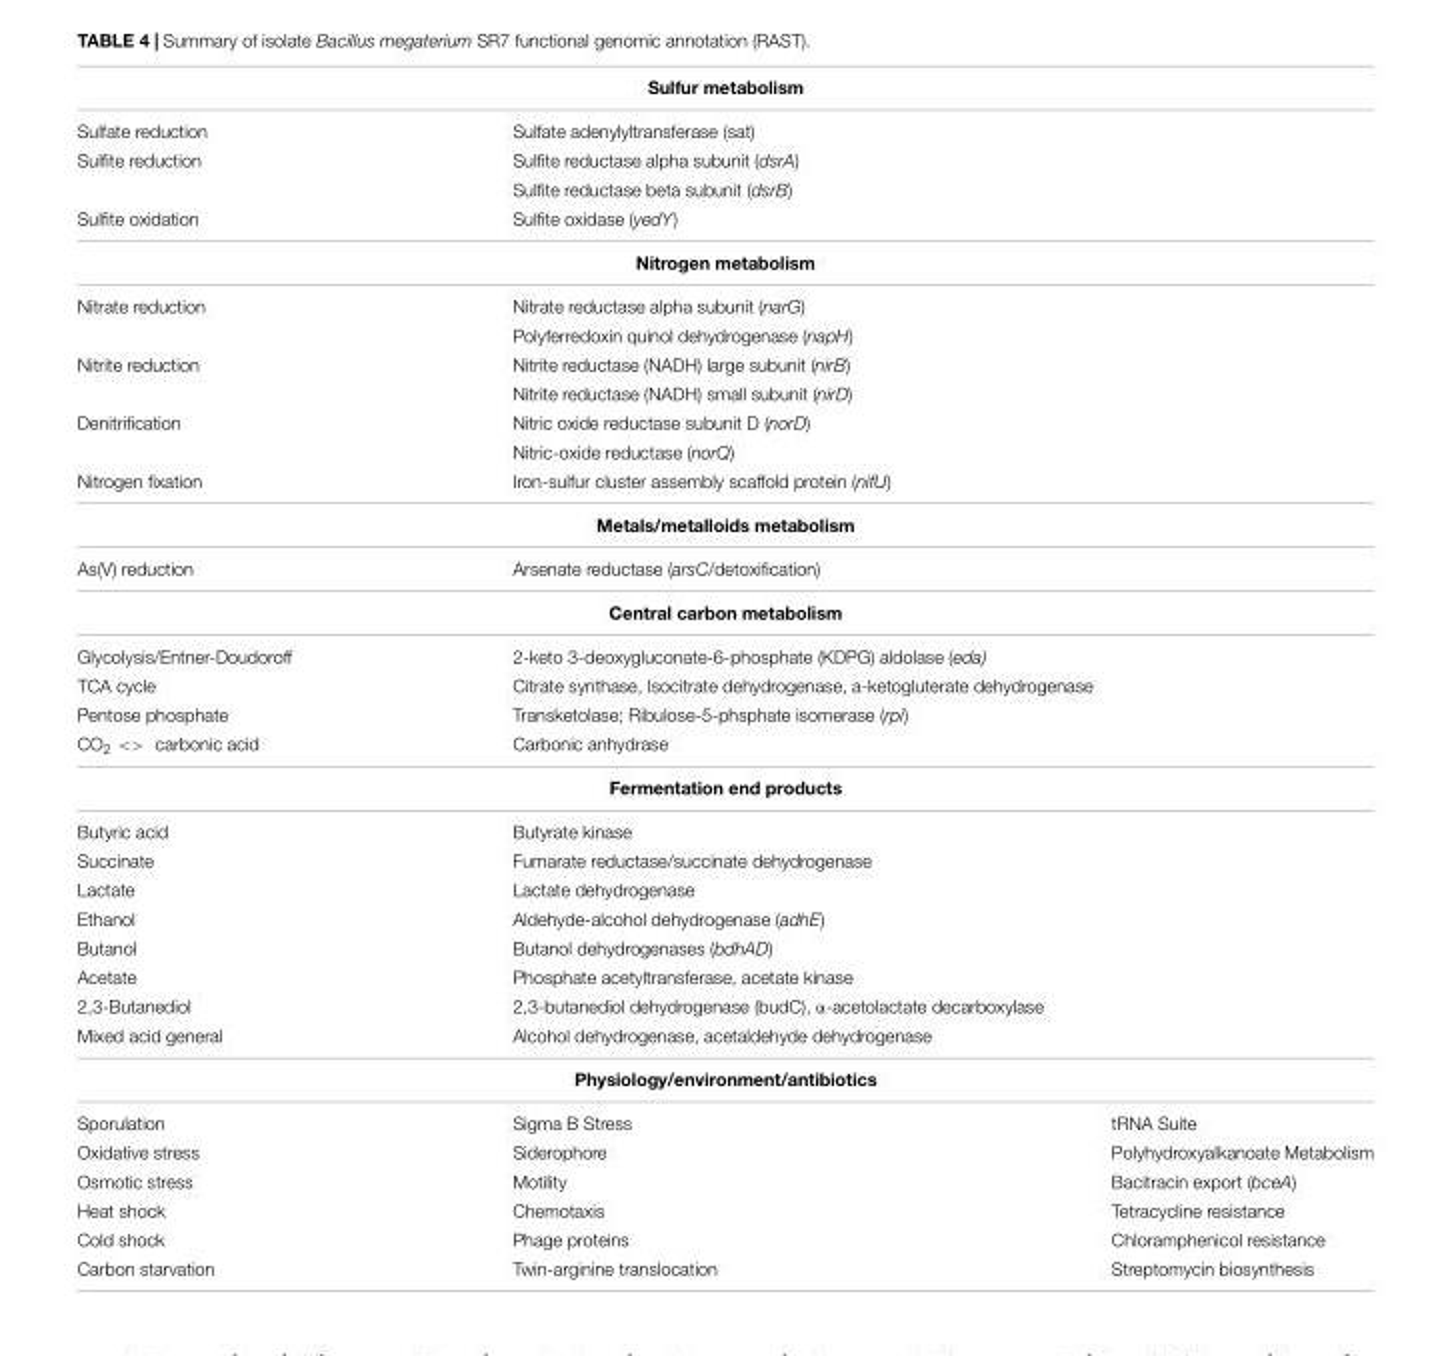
<table><thead><tr><td colspan="3">Sulfur metabolism</td></tr></thead><tbody><tr><td>Sulfate reduction</td><td colspan="2">Sulfate adenylyltransferase (sat)</td></tr><tr><td rowspan="2">Sulfite reduction</td><td colspan="2">Sulfite reductase alpha subunit (dsrA)</td></tr><tr><td colspan="2">Sulfite reductase beta subunit (dsrB)</td></tr><tr><td>Sulfite oxidation</td><td colspan="2">Sulfite oxidase (yedY)</td></tr><tr><td colspan="3">Nitrogen metabolism</td></tr><tr><td rowspan="2">Nitrate reduction</td><td colspan="2">Nitrate reductase alpha subunit (narG)</td></tr><tr><td colspan="2">Polyferredoxin quinol dehydrogenase (napH)</td></tr><tr><td rowspan="2">Nitrite reduction</td><td colspan="2">Nitrite reductase (NADH) large subunit (nirB)</td></tr><tr><td colspan="2">Nitrite reductase (NADH) small subunit (nirD)</td></tr><tr><td rowspan="2">Denitrification</td><td colspan="2">Nitric oxide reductase subunit D (norD)</td></tr><tr><td colspan="2">Nitric-oxide reductase (norQ)</td></tr><tr><td>Nitrogen fixation</td><td>Iron-sulfur cluster assembly scaffold protein (nifU)</td><td></td></tr><tr><td colspan="3">Metals/metalloids metabolism</td></tr><tr><td>As(V) reduction</td><td colspan="2">Arsenate reductase (arsC/detoxification)</td></tr><tr><td colspan="3">Central carbon metabolism</td></tr><tr><td>Glycolysis/Entner-Doudoroff</td><td colspan="2">2-keto 3-deoxygluconate-6-phosphate (KDPG) aldolase (eda)</td></tr><tr><td>TCA cycle</td><td colspan="2">Citrate synthase, Isocitrate dehydrogenase, a-ketogluterate dehydrogenase</td></tr><tr><td>Pentose phosphate</td><td colspan="2">Transketolase; Ribulose-5-phsphate isomerase (rpi)</td></tr><tr><td>CO<sub>2</sub> &lt;&gt; carbonic acid</td><td colspan="2">Carbonic anhydrase</td></tr><tr><td colspan="3">Fermentation end products</td></tr><tr><td>Butyric acid</td><td colspan="2">Butyrate kinase</td></tr><tr><td>Succinate</td><td colspan="2">Fumarate reductase/succinate dehydrogenase</td></tr><tr><td>Lactate</td><td colspan="2">Lactate dehydrogenase</td></tr><tr><td>Ethanol</td><td colspan="2">Aldehyde-alcohol dehydrogenase (adhE)</td></tr><tr><td>Butanol</td><td colspan="2">Butanol dehydrogenases (bdhAD)</td></tr><tr><td>Acetate</td><td colspan="2">Phosphate acetyltransferase, acetate kinase</td></tr><tr><td>2,3-Butanediol</td><td colspan="2">2,3-butanediol dehydrogenase (budC), α-acetolactate decarboxylase</td></tr><tr><td>Mixed acid general</td><td colspan="2">Alcohol dehydrogenase, acetaldehyde dehydrogenase</td></tr><tr><td colspan="3">Physiology/environment/antibiotics</td></tr><tr><td>Sporulation</td><td>Sigma B Stress</td><td>tRNA Suite</td></tr><tr><td>Oxidative stress</td><td>Siderophore</td><td>Polyhydroxyalkanoate Metabolism</td></tr><tr><td>Osmotic stress</td><td>Motility</td><td>Bacitracin export (bceA)</td></tr><tr><td>Heat shock</td><td>Chemotaxis</td><td>Tetracycline resistance</td></tr><tr><td>Cold shock</td><td>Phage proteins</td><td>Chloramphenicol resistance</td></tr><tr><td>Carbon starvation</td><td>Twin-arginine translocation</td><td>Streptomycin biosynthesis</td></tr></tbody></table>